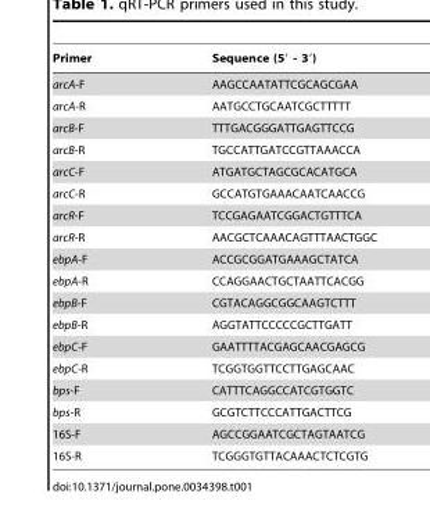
<table><thead><tr><td>Primer</td><td>Sequence (5′ - 3′)</td></tr></thead><tbody><tr><td>arcA-F</td><td>AAGCCAATATTCGCAGCGAA</td></tr><tr><td>arcA-R</td><td>AATGCCTGCAATCGCTTTTT</td></tr><tr><td>arcB-F</td><td>TTTGACGGGATTGAGTTCCG</td></tr><tr><td>arcB-R</td><td>TGCCATTGATCCGTTAAACCA</td></tr><tr><td>arcC-F</td><td>ATGATGCTAGCGCACATGCA</td></tr><tr><td>arcC-R</td><td>GCCATGTGAAACAATCAACCG</td></tr><tr><td>arcR-F</td><td>TCCGAGAATCGGACTGTTTCA</td></tr><tr><td>arcR-R</td><td>AACGCTCAAACAGTTTAACTGGC</td></tr><tr><td>ebpA-F</td><td>ACCGCGGATGAAAGCTATCA</td></tr><tr><td>ebpA-R</td><td>CCAGGAACTGCTAATTCACGG</td></tr><tr><td>ebpB-F</td><td>CGTACAGGCGGCAAGTCTTT</td></tr><tr><td>ebpB-R</td><td>AGGTATTCCCCCGCTTGATT</td></tr><tr><td>ebpC-F</td><td>GAATTTTACGAGCAACGAGCG</td></tr><tr><td>ebpC-R</td><td>TCGGTGGTTCCTTGAGCAAC</td></tr><tr><td>bps-F</td><td>CATTTCAGGCCATCGTGGTC</td></tr><tr><td>bps-R</td><td>GCGTCTTCCCATTGACTTCG</td></tr><tr><td>16S-F</td><td>AGCCGGAATCGCTAGTAATCG</td></tr><tr><td>16S-R</td><td>TCGGGTGTTACAAACTCTCGTG</td></tr></tbody></table>